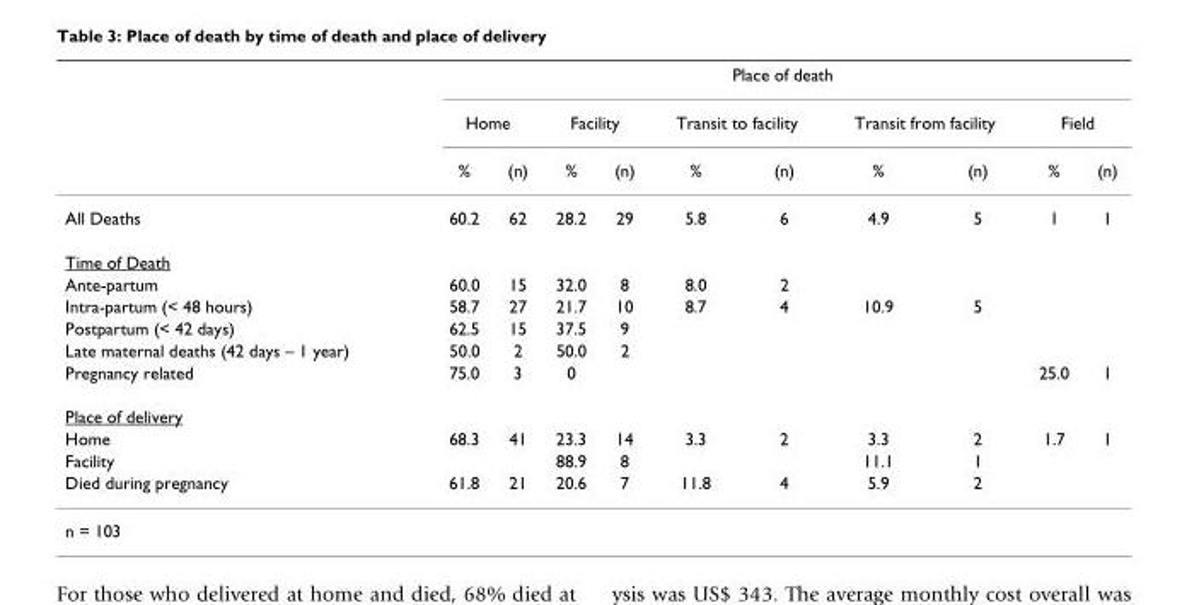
<table><thead><tr><td rowspan="3"></td><td colspan="10">Place of death</td></tr><tr><td colspan="2">Home</td><td colspan="2">Facility</td><td colspan="2">Transit to facility</td><td colspan="2">Transit from facility</td><td colspan="2">Field</td></tr><tr><td>%</td><td>(n)</td><td>%</td><td>(n)</td><td>%</td><td>(n)</td><td>%</td><td>(n)</td><td>%</td><td>(n)</td></tr></thead><tbody><tr><td>All Deaths</td><td>60.2</td><td>62</td><td>28.2</td><td>29</td><td>5.8</td><td>6</td><td>4.9</td><td>5</td><td>1</td><td>1</td></tr><tr><td colspan="11">Time of Death</td></tr><tr><td>Ante-partum</td><td>60.0</td><td>15</td><td>32.0</td><td>8</td><td>8.0</td><td>2</td><td></td><td></td><td></td><td></td></tr><tr><td>Intra-partum (&lt; 48 hours)</td><td>58.7</td><td>27</td><td>21.7</td><td>10</td><td>8.7</td><td>4</td><td>10.9</td><td>5</td><td></td><td></td></tr><tr><td>Postpartum (&lt; 42 days)</td><td>62.5</td><td>15</td><td>37.5</td><td>9</td><td></td><td></td><td></td><td></td><td></td><td></td></tr><tr><td>Late maternal deaths (42 days – 1 year)</td><td>50.0</td><td>2</td><td>50.0</td><td>2</td><td></td><td></td><td></td><td></td><td></td><td></td></tr><tr><td>Pregnancy related</td><td>75.0</td><td>3</td><td>0</td><td></td><td></td><td></td><td></td><td></td><td>25.0</td><td>1</td></tr><tr><td colspan="11">Place of delivery</td></tr><tr><td>Home</td><td>68.3</td><td>41</td><td>23.3</td><td>14</td><td>3.3</td><td>2</td><td>3.3</td><td>2</td><td>1.7</td><td>1</td></tr><tr><td>Facility</td><td></td><td></td><td>88.9</td><td>8</td><td></td><td></td><td>11.1</td><td>1</td><td></td><td></td></tr><tr><td>Died during pregnancy</td><td>61.8</td><td>21</td><td>20.6</td><td>7</td><td>11.8</td><td>4</td><td>5.9</td><td>2</td><td></td><td></td></tr><tr><td>n = 103</td><td></td><td></td><td></td><td></td><td></td><td></td><td></td><td></td><td></td><td></td></tr></tbody></table>